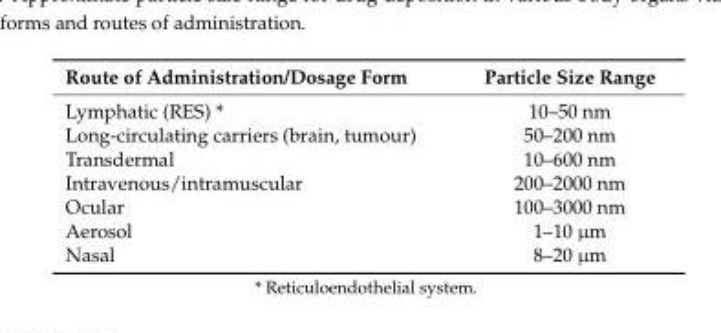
<table><thead><tr><td>Route of Administration/Dosage Form</td><td>Particle Size Range</td></tr></thead><tbody><tr><td>Lymphatic (RES) *</td><td>10–50 nm</td></tr><tr><td>Long-circulating carriers (brain, tumour)</td><td>50–200 nm</td></tr><tr><td>Transdermal</td><td>10–600 nm</td></tr><tr><td>Intravenous/intramuscular</td><td>200–2000 nm</td></tr><tr><td>Ocular</td><td>100–3000 nm</td></tr><tr><td>Aerosol</td><td>1–10 µm</td></tr><tr><td>Nasal</td><td>8–20 µm</td></tr></tbody></table>